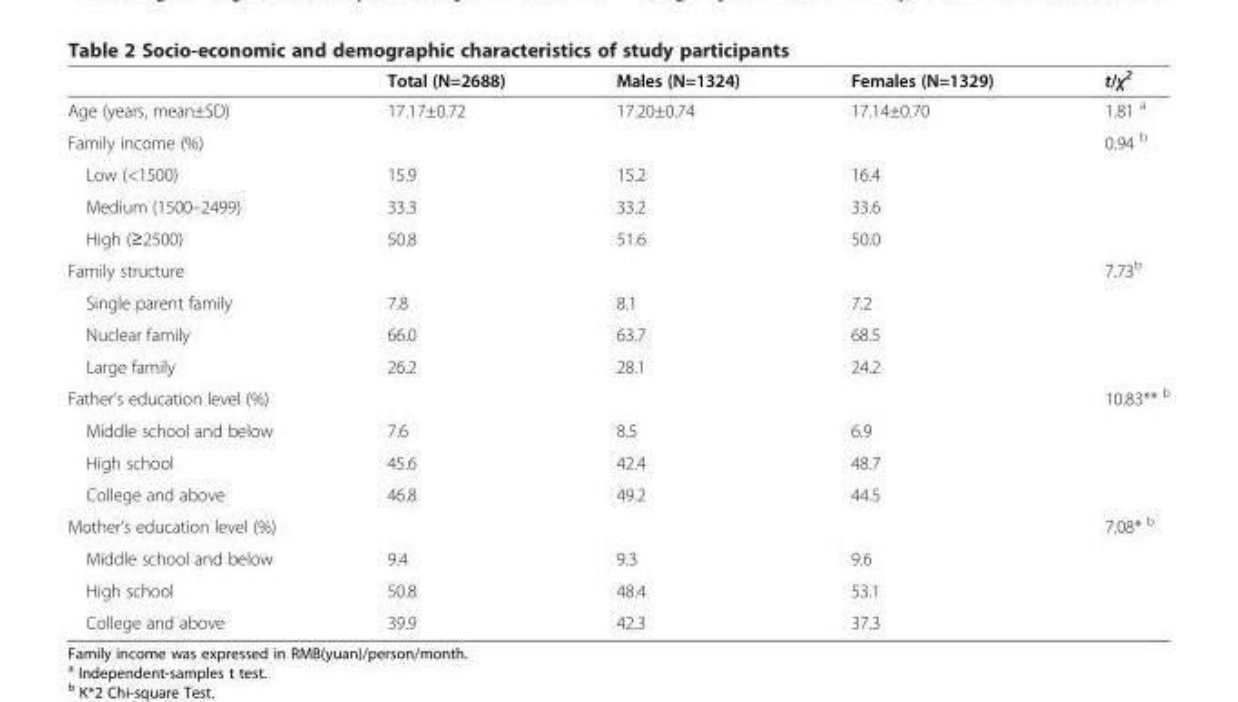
<table><thead><tr><td></td><td>Total (N=2688)</td><td>Males (N=1324)</td><td>Females (N=1329)</td><td>t/χ<sup>2</sup></td></tr></thead><tbody><tr><td>Age (years, mean±SD)</td><td>17.17±0.72</td><td>17.20±0.74</td><td>17.14±0.70</td><td>1.81 <sup>a</sup></td></tr><tr><td>Family income (%)</td><td></td><td></td><td></td><td>0.94 <sup>b</sup></td></tr><tr><td>Low (&lt;1500)</td><td>15.9</td><td>15.2</td><td>16.4</td><td></td></tr><tr><td>Medium (1500–2499)</td><td>33.3</td><td>33.2</td><td>33.6</td><td></td></tr><tr><td>High (≥2500)</td><td>50.8</td><td>51.6</td><td>50.0</td><td></td></tr><tr><td>Family structure</td><td></td><td></td><td></td><td>7.73<sup>b</sup></td></tr><tr><td>Single parent family</td><td>7.8</td><td>8.1</td><td>7.2</td><td></td></tr><tr><td>Nuclear family</td><td>66.0</td><td>63.7</td><td>68.5</td><td></td></tr><tr><td>Large family</td><td>26.2</td><td>28.1</td><td>24.2</td><td></td></tr><tr><td>Father’s education level (%)</td><td></td><td></td><td></td><td>10.83** <sup>b</sup></td></tr><tr><td>Middle school and below</td><td>7.6</td><td>8.5</td><td>6.9</td><td></td></tr><tr><td>High school</td><td>45.6</td><td>42.4</td><td>48.7</td><td></td></tr><tr><td>College and above</td><td>46.8</td><td>49.2</td><td>44.5</td><td></td></tr><tr><td>Mother’s education level (%)</td><td></td><td></td><td></td><td>7.08* <sup>b</sup></td></tr><tr><td>Middle school and below</td><td>9.4</td><td>9.3</td><td>9.6</td><td></td></tr><tr><td>High school</td><td>50.8</td><td>48.4</td><td>53.1</td><td></td></tr><tr><td>College and above</td><td>39.9</td><td>42.3</td><td>37.3</td><td></td></tr></tbody></table>